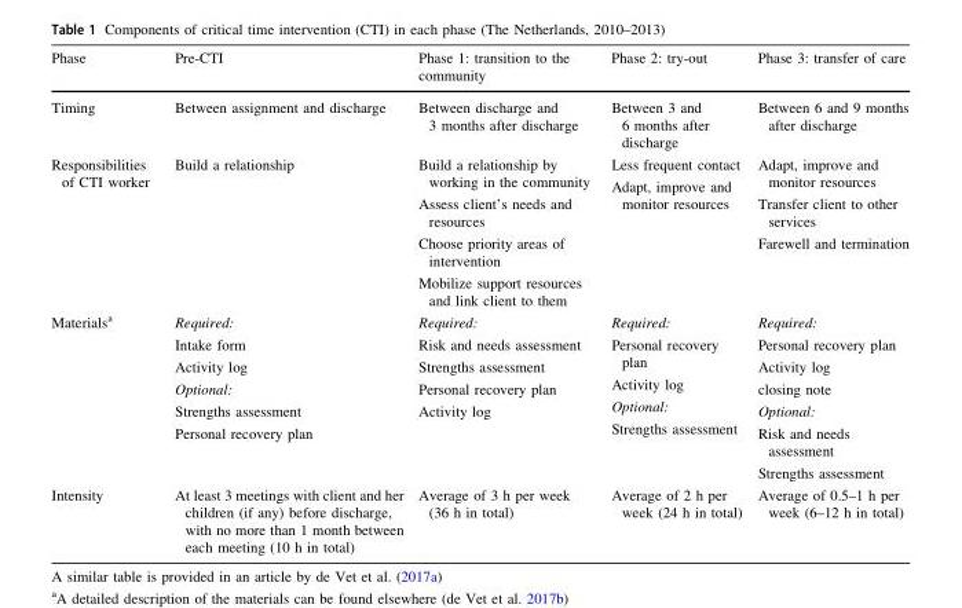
<table><thead><tr><td>Phase</td><td>Pre-CTI</td><td>Phase 1: transition to the community</td><td>Phase 2: try-out</td><td>Phase 3: transfer of care</td></tr></thead><tbody><tr><td>Timing</td><td>Between assignment and discharge</td><td>Between discharge and 3 months after discharge</td><td>Between 3 and 6 months after discharge</td><td>Between 6 and 9 months after discharge</td></tr><tr><td>Responsibilities of CTI worker</td><td>Build a relationship</td><td>Build a relationship by working in the community Assess client’s needs and resources Choose priority areas of intervention Mobilize support resources and link client to them</td><td>Less frequent contact Adapt, improve and monitor resources</td><td>Adapt, improve and monitor resources Transfer client to other services Farewell and termination</td></tr><tr><td>Materials<sup>a</sup></td><td>Required: Intake form Activity log Optional: Strengths assessment Personal recovery plan</td><td>Required: Risk and needs assessment Strengths assessment Personal recovery plan Activity log</td><td>Required: Personal recovery plan Activity log Optional: Strengths assessment</td><td>Required: Personal recovery plan Activity log closing note Optional: Risk and needs assessment Strengths assessment</td></tr><tr><td>Intensity</td><td>At least 3 meetings with client and her children (if any) before discharge, with no more than 1 month between each meeting (10 h in total)</td><td>Average of 3 h per week (36 h in total)</td><td>Average of 2 h per week (24 h in total)</td><td>Average of 0.5–1 h per week (6–12 h in total)</td></tr></tbody></table>